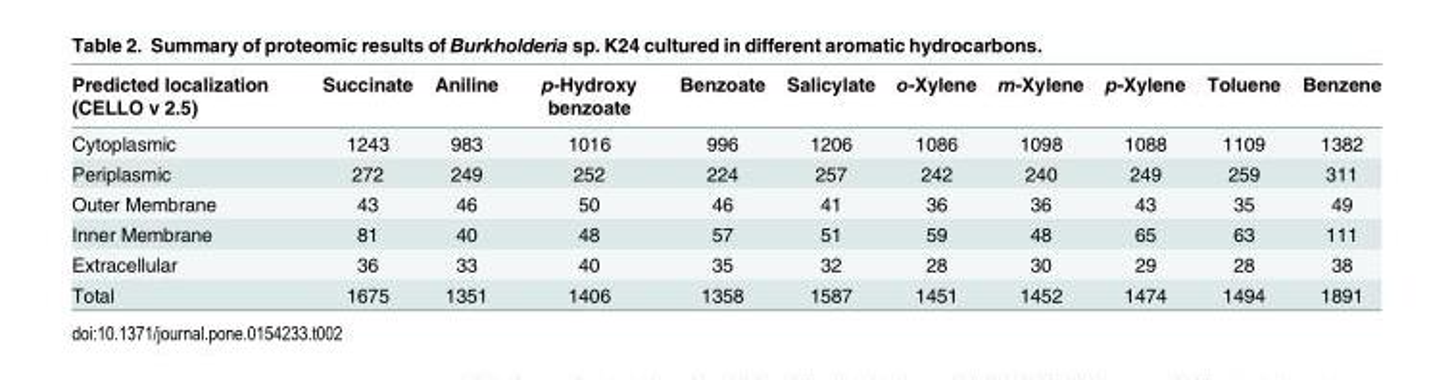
<table><thead><tr><td>Predicted localization (CELLO v 2.5)</td><td>Succinate</td><td>Aniline</td><td>p-Hydroxy benzoate</td><td>Benzoate</td><td>Salicylate</td><td>o-Xylene</td><td>m-Xylene</td><td>p-Xylene</td><td>Toluene</td><td>Benzene</td></tr></thead><tbody><tr><td>Cytoplasmic</td><td>1243</td><td>983</td><td>1016</td><td>996</td><td>1206</td><td>1086</td><td>1098</td><td>1088</td><td>1109</td><td>1382</td></tr><tr><td>Periplasmic</td><td>272</td><td>249</td><td>252</td><td>224</td><td>257</td><td>242</td><td>240</td><td>249</td><td>259</td><td>311</td></tr><tr><td>Outer Membrane</td><td>43</td><td>46</td><td>50</td><td>46</td><td>41</td><td>36</td><td>36</td><td>43</td><td>35</td><td>49</td></tr><tr><td>Inner Membrane</td><td>81</td><td>40</td><td>48</td><td>57</td><td>51</td><td>59</td><td>48</td><td>65</td><td>63</td><td>111</td></tr><tr><td>Extracellular</td><td>36</td><td>33</td><td>40</td><td>35</td><td>32</td><td>28</td><td>30</td><td>29</td><td>28</td><td>38</td></tr><tr><td>Total</td><td>1675</td><td>1351</td><td>1406</td><td>1358</td><td>1587</td><td>1451</td><td>1452</td><td>1474</td><td>1494</td><td>1891</td></tr></tbody></table>